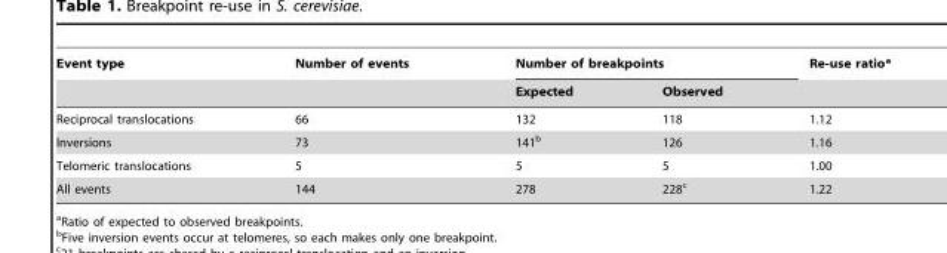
<table><thead><tr><td rowspan="2">Event type</td><td rowspan="2">Number of events</td><td colspan="2">Number of breakpoints</td><td rowspan="2">Re-use ratio<sup>a</sup></td></tr><tr><td>Expected</td><td>Observed</td></tr></thead><tbody><tr><td>Reciprocal translocations</td><td>66</td><td>132</td><td>118</td><td>1.12</td></tr><tr><td>Inversions</td><td>73</td><td>141<sup>b</sup></td><td>126</td><td>1.16</td></tr><tr><td>Telomeric translocations</td><td>5</td><td>5</td><td>5</td><td>1.00</td></tr><tr><td>All events</td><td>144</td><td>278</td><td>228<sup>c</sup></td><td>1.22</td></tr></tbody></table>